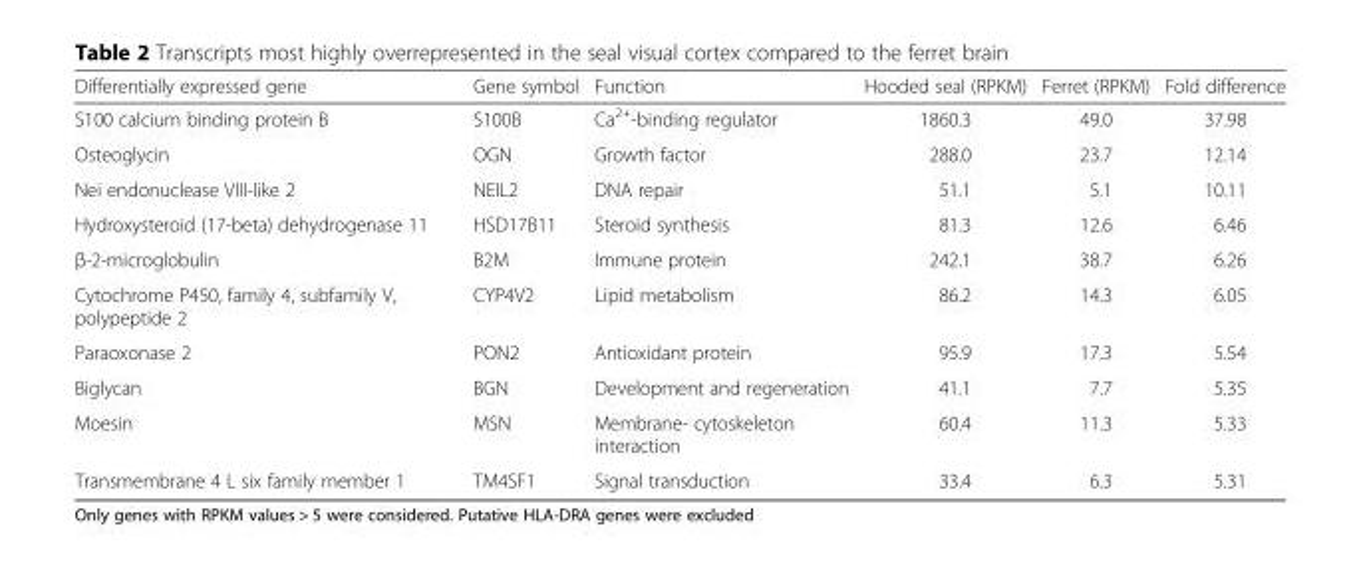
<table><thead><tr><td>Differentially expressed gene</td><td>Gene symbol</td><td>Function</td><td>Hooded seal (RPKM)</td><td>Ferret (RPKM)</td><td>Fold difference</td></tr></thead><tbody><tr><td>S100 calcium binding protein B</td><td>S100B</td><td>Ca<sup>2+</sup>-binding regulator</td><td>1860.3</td><td>49.0</td><td>37.98</td></tr><tr><td>Osteoglycin</td><td>OGN</td><td>Growth factor</td><td>288.0</td><td>23.7</td><td>12.14</td></tr><tr><td>Nei endonuclease VIII-like 2</td><td>NEIL2</td><td>DNA repair</td><td>51.1</td><td>5.1</td><td>10.11</td></tr><tr><td>Hydroxysteroid (17-beta) dehydrogenase 11</td><td>HSD17B11</td><td>Steroid synthesis</td><td>81.3</td><td>12.6</td><td>6.46</td></tr><tr><td>β-2-microglobulin</td><td>B2M</td><td>Immune protein</td><td>242.1</td><td>38.7</td><td>6.26</td></tr><tr><td>Cytochrome P450, family 4, subfamily V, polypeptide 2</td><td>CYP4V2</td><td>Lipid metabolism</td><td>86.2</td><td>14.3</td><td>6.05</td></tr><tr><td>Paraoxonase 2</td><td>PON2</td><td>Antioxidant protein</td><td>95.9</td><td>17.3</td><td>5.54</td></tr><tr><td>Biglycan</td><td>BGN</td><td>Development and regeneration</td><td>41.1</td><td>7.7</td><td>5.35</td></tr><tr><td>Moesin</td><td>MSN</td><td>Membrane- cytoskeleton interaction</td><td>60.4</td><td>11.3</td><td>5.33</td></tr><tr><td>Transmembrane 4 L six family member 1</td><td>TM4SF1</td><td>Signal transduction</td><td>33.4</td><td>6.3</td><td>5.31</td></tr></tbody></table>